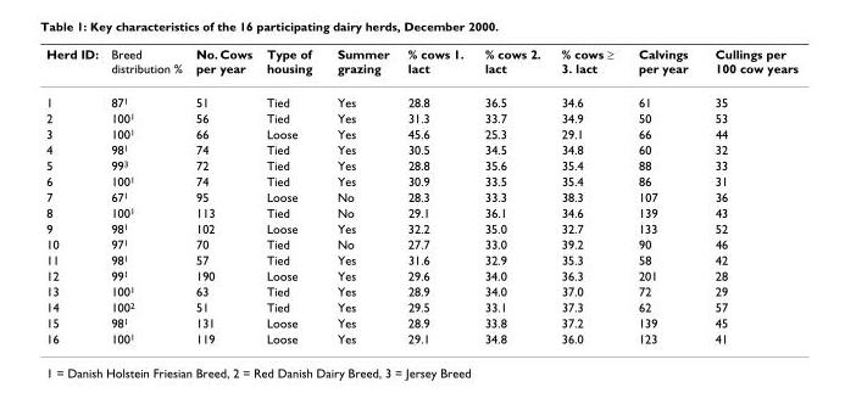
<table><thead><tr><td>Herd ID:</td><td>Breed distribution %</td><td>No. Cows per year</td><td>Type of housing</td><td>Summer grazing</td><td>% cows 1. lact</td><td>% cows 2. lact</td><td>% cows ≥ 3. lact</td><td>Calvings per year</td><td>Cullings per 100 cow years</td></tr></thead><tbody><tr><td>1</td><td>87<sup>1</sup></td><td>51</td><td>Tied</td><td>Yes</td><td>28.8</td><td>36.5</td><td>34.6</td><td>61</td><td>35</td></tr><tr><td>2</td><td>100<sup>1</sup></td><td>56</td><td>Tied</td><td>Yes</td><td>31.3</td><td>33.7</td><td>34.9</td><td>50</td><td>53</td></tr><tr><td>3</td><td>100<sup>1</sup></td><td>66</td><td>Loose</td><td>Yes</td><td>45.6</td><td>25.3</td><td>29.1</td><td>66</td><td>44</td></tr><tr><td>4</td><td>98<sup>1</sup></td><td>74</td><td>Tied</td><td>Yes</td><td>30.5</td><td>34.5</td><td>34.8</td><td>60</td><td>32</td></tr><tr><td>5</td><td>99<sup>3</sup></td><td>72</td><td>Tied</td><td>Yes</td><td>28.8</td><td>35.6</td><td>35.4</td><td>88</td><td>33</td></tr><tr><td>6</td><td>100<sup>1</sup></td><td>74</td><td>Tied</td><td>Yes</td><td>30.9</td><td>33.5</td><td>35.4</td><td>86</td><td>31</td></tr><tr><td>7</td><td>67<sup>1</sup></td><td>95</td><td>Loose</td><td>No</td><td>28.3</td><td>33.3</td><td>38.3</td><td>107</td><td>36</td></tr><tr><td>8</td><td>100<sup>1</sup></td><td>113</td><td>Tied</td><td>No</td><td>29.1</td><td>36.1</td><td>34.6</td><td>139</td><td>43</td></tr><tr><td>9</td><td>98<sup>1</sup></td><td>102</td><td>Loose</td><td>Yes</td><td>32.2</td><td>35.0</td><td>32.7</td><td>133</td><td>52</td></tr><tr><td>10</td><td>97<sup>1</sup></td><td>70</td><td>Tied</td><td>No</td><td>27.7</td><td>33.0</td><td>39.2</td><td>90</td><td>46</td></tr><tr><td>11</td><td>98<sup>1</sup></td><td>57</td><td>Tied</td><td>Yes</td><td>31.6</td><td>32.9</td><td>35.3</td><td>58</td><td>42</td></tr><tr><td>12</td><td>99<sup>1</sup></td><td>190</td><td>Loose</td><td>Yes</td><td>29.6</td><td>34.0</td><td>36.3</td><td>201</td><td>28</td></tr><tr><td>13</td><td>100<sup>1</sup></td><td>63</td><td>Tied</td><td>Yes</td><td>28.9</td><td>34.0</td><td>37.0</td><td>72</td><td>29</td></tr><tr><td>14</td><td>100<sup>2</sup></td><td>51</td><td>Tied</td><td>Yes</td><td>29.5</td><td>33.1</td><td>37.3</td><td>62</td><td>57</td></tr><tr><td>15</td><td>98<sup>1</sup></td><td>131</td><td>Loose</td><td>Yes</td><td>28.9</td><td>33.8</td><td>37.2</td><td>139</td><td>45</td></tr><tr><td>16</td><td>100<sup>1</sup></td><td>119</td><td>Loose</td><td>Yes</td><td>29.1</td><td>34.8</td><td>36.0</td><td>123</td><td>41</td></tr></tbody></table>